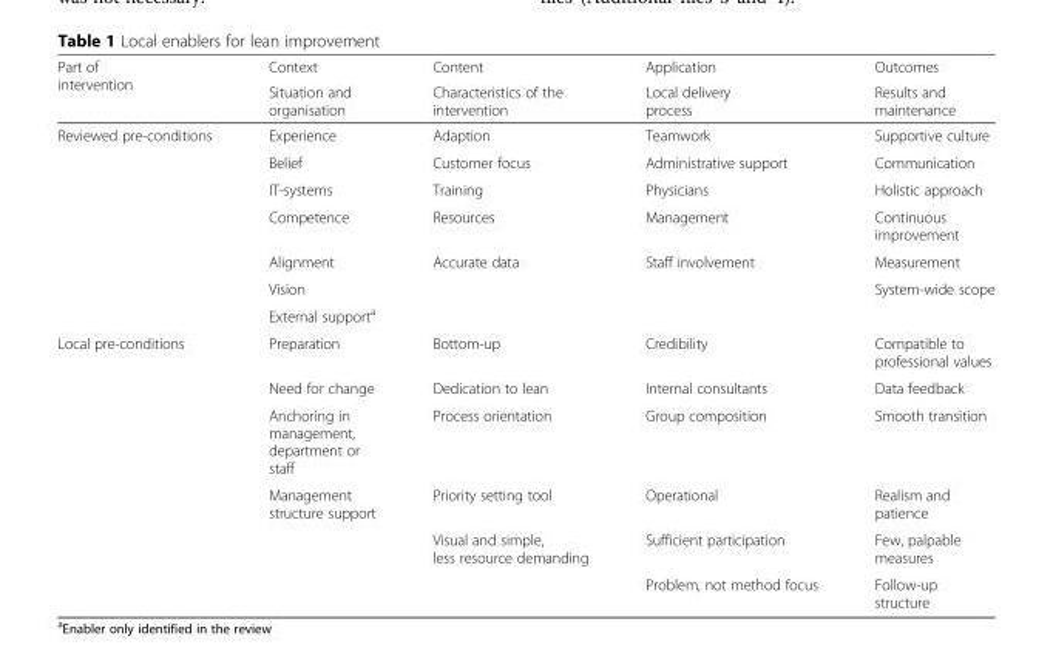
<table><thead><tr><td rowspan="2">Part of intervention</td><td rowspan="2">Context Situation and organisation</td><td rowspan="2">Content Characteristics of the intervention</td><td rowspan="2">Application Local delivery process</td><td rowspan="2">Outcomes Results and maintenance</td></tr><tr></tr></thead><tbody><tr><td rowspan="7">Reviewed pre-conditions</td><td>Experience</td><td>Adaption</td><td>Teamwork</td><td>Supportive culture</td></tr><tr><td>Belief</td><td>Customer focus</td><td>Administrative support</td><td>Communication</td></tr><tr><td>IT-systems</td><td>Training</td><td>Physicians</td><td>Holistic approach</td></tr><tr><td>Competence</td><td>Resources</td><td>Management</td><td>Continuous improvement</td></tr><tr><td>Alignment</td><td>Accurate data</td><td>Staff involvement</td><td>Measurement</td></tr><tr><td>Vision</td><td rowspan="2"></td><td rowspan="2"></td><td rowspan="2">System-wide scope</td></tr><tr><td>External support<sup>a</sup></td></tr><tr><td rowspan="6">Local pre-conditions</td><td>Preparation</td><td>Bottom-up</td><td>Credibility</td><td>Compatible to professional values</td></tr><tr><td>Need for change</td><td>Dedication to lean</td><td>Internal consultants</td><td>Data feedback</td></tr><tr><td>Anchoring in management, department or staff</td><td>Process orientation</td><td>Group composition</td><td>Smooth transition</td></tr><tr><td rowspan="3">Management structure support</td><td>Priority setting tool</td><td>Operational</td><td>Realism and patience</td></tr><tr><td>Visual and simple, less resource demanding</td><td>Sufficient participation</td><td>Few, palpable measures</td></tr><tr><td></td><td>Problem, not method focus</td><td>Follow-up structure</td></tr></tbody></table>